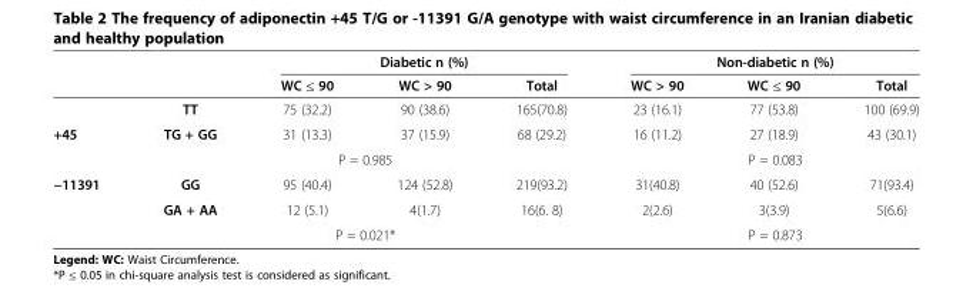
<table><thead><tr><td rowspan="2"></td><td rowspan="2"></td><td colspan="3">Diabetic n (%)</td><td colspan="3">Non-diabetic n (%)</td></tr><tr><td>WC ≤ 90</td><td>WC &gt; 90</td><td>Total</td><td>WC &gt; 90</td><td>WC ≤ 90</td><td>Total</td></tr></thead><tbody><tr><td></td><td>TT</td><td>75 (32.2)</td><td>90 (38.6)</td><td>165(70.8)</td><td>23 (16.1)</td><td>77 (53.8)</td><td>100 (69.9)</td></tr><tr><td rowspan="2">+45</td><td>TG + GG</td><td>31 (13.3)</td><td>37 (15.9)</td><td>68 (29.2)</td><td>16 (11.2)</td><td>27 (18.9)</td><td>43 (30.1)</td></tr><tr><td colspan="4">P = 0.985</td><td colspan="3">P = 0.083</td></tr><tr><td rowspan="3">−11391</td><td>GG</td><td>95 (40.4)</td><td>124 (52.8)</td><td>219(93.2)</td><td>31(40.8)</td><td>40 (52.6)</td><td>71(93.4)</td></tr><tr><td>GA + AA</td><td>12 (5.1)</td><td>4(1.7)</td><td>16(6. 8)</td><td>2(2.6)</td><td>3(3.9)</td><td>5(6.6)</td></tr><tr><td colspan="4">P = 0.021*</td><td colspan="3">P = 0.873</td></tr></tbody></table>